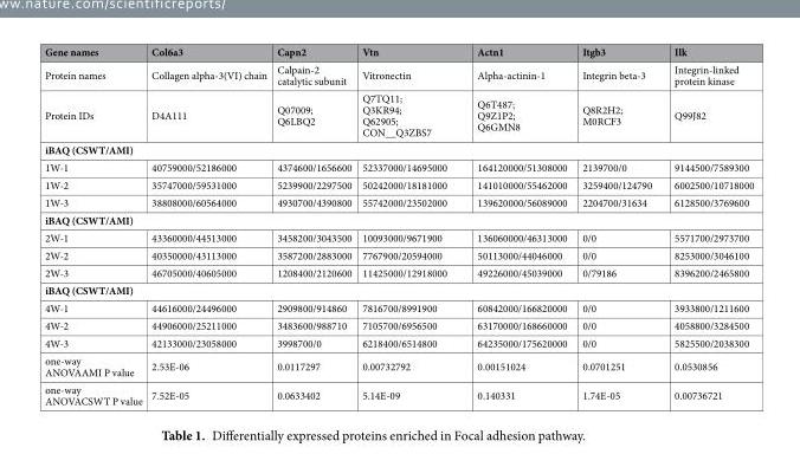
<table><thead><tr><td>Gene names</td><td>Col6a3</td><td>Capn2</td><td>Vtn</td><td>Actn1</td><td>Itgb3</td><td>Ilk</td></tr></thead><tbody><tr><td>Protein names</td><td>Collagen alpha-3(VI) chain</td><td>Calpain-2 catalytic subunit</td><td>Vitronectin</td><td>Alpha-actinin-1</td><td>Integrin beta-3</td><td>Integrin-linked protein kinase</td></tr><tr><td>Protein IDs</td><td>D4A111</td><td>Q07009; Q6LBQ2</td><td>Q7TQ11; Q3KR94; Q62905; CON__Q3ZBS7</td><td>Q6T487; Q9Z1P2; Q6GMN8</td><td>Q8R2H2; M0RCF3</td><td>Q99J82</td></tr><tr><td colspan="7">iBAQ (CSWT/AMI)</td></tr><tr><td>1W-1</td><td>40759000/52186000</td><td>4374600/1656600</td><td>52337000/14695000</td><td>164120000/51308000</td><td>2139700/0</td><td>9144500/7589300</td></tr><tr><td>1W-2</td><td>35747000/59531000</td><td>5239900/2297500</td><td>50242000/18181000</td><td>141010000/55462000</td><td>3259400/124790</td><td>6002500/10718000</td></tr><tr><td>1W-3</td><td>38808000/60564000</td><td>4930700/4390800</td><td>55742000/23502000</td><td>139620000/56089000</td><td>2204700/31634</td><td>6128500/3769600</td></tr><tr><td colspan="7">iBAQ (CSWT/AMI)</td></tr><tr><td>2W-1</td><td>43360000/44513000</td><td>3458200/3043500</td><td>10093000/9671900</td><td>136060000/46313000</td><td>0/0</td><td>5571700/2973700</td></tr><tr><td>2W-2</td><td>40350000/43113000</td><td>3587200/2883000</td><td>7767900/20594000</td><td>50113000/44046000</td><td>0/0</td><td>8253000/3046100</td></tr><tr><td>2W-3</td><td>46705000/40605000</td><td>1208400/2120600</td><td>11425000/12918000</td><td>49226000/45039000</td><td>0/79186</td><td>8396200/2465800</td></tr><tr><td colspan="7">iBAQ (CSWT/AMI)</td></tr><tr><td>4W-1</td><td>44616000/24496000</td><td>2909800/914860</td><td>7816700/8991900</td><td>60842000/166820000</td><td>0/0</td><td>3933800/1211600</td></tr><tr><td>4W-2</td><td>44906000/25211000</td><td>3483600/988710</td><td>7105700/6956500</td><td>63170000/168660000</td><td>0/0</td><td>4058800/3284500</td></tr><tr><td>4W-3</td><td>42133000/23058000</td><td>3998700/0</td><td>6218400/6514800</td><td>64235000/175620000</td><td>0/0</td><td>5825500/2038300</td></tr><tr><td>one-way ANOVAAMI P value</td><td>2.53E-06</td><td>0.0117297</td><td>0.00732792</td><td>0.00151024</td><td>0.0701251</td><td>0.0530856</td></tr><tr><td>one-way ANOVACSWT P value</td><td>7.52E-05</td><td>0.0633402</td><td>5.14E-09</td><td>0.140331</td><td>1.74E-05</td><td>0.00736721</td></tr></tbody></table>